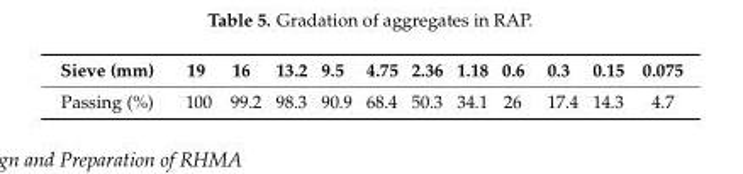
<table><thead><tr><td>Sieve (mm)</td><td>19</td><td>16</td><td>13.2</td><td>9.5</td><td>4.75</td><td>2.36</td><td>1.18</td><td>0.6</td><td>0.3</td><td>0.15</td><td>0.075</td></tr></thead><tbody><tr><td>Passing (%)</td><td>100</td><td>99.2</td><td>98.3</td><td>90.9</td><td>68.4</td><td>50.3</td><td>34.1</td><td>26</td><td>17.4</td><td>14.3</td><td>4.7</td></tr></tbody></table>